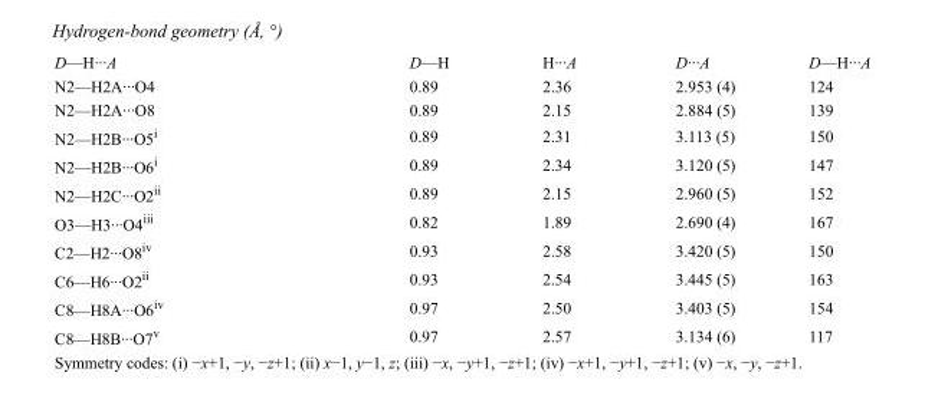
<table><tbody><tr><td>D—H···A</td><td>D—H</td><td>H···A</td><td>D···A</td><td>D—H···A</td></tr><tr><td>N2—H2A···O4</td><td>0.89</td><td>2.36</td><td>2.953 (4)</td><td>124</td></tr><tr><td>N2—H2A···O8</td><td>0.89</td><td>2.15</td><td>2.884 (5)</td><td>139</td></tr><tr><td>N2—H2B···O5<sup>i</sup></td><td>0.89</td><td>2.31</td><td>3.113 (5)</td><td>150</td></tr><tr><td>N2—H2B···O6<sup>i</sup></td><td>0.89</td><td>2.34</td><td>3.120 (5)</td><td>147</td></tr><tr><td>N2—H2C···O2<sup>ii</sup></td><td>0.89</td><td>2.15</td><td>2.960 (5)</td><td>152</td></tr><tr><td>O3—H3···O4<sup>iii</sup></td><td>0.82</td><td>1.89</td><td>2.690 (4)</td><td>167</td></tr><tr><td>C2—H2···O8<sup>iv</sup></td><td>0.93</td><td>2.58</td><td>3.420 (5)</td><td>150</td></tr><tr><td>C6—H6···O2<sup>ii</sup></td><td>0.93</td><td>2.54</td><td>3.445 (5)</td><td>163</td></tr><tr><td>C8—H8A···O6<sup>iv</sup></td><td>0.97</td><td>2.50</td><td>3.403 (5)</td><td>154</td></tr><tr><td>C8—H8B···O7<sup>v</sup></td><td>0.97</td><td>2.57</td><td>3.134 (6)</td><td>117</td></tr></tbody></table>